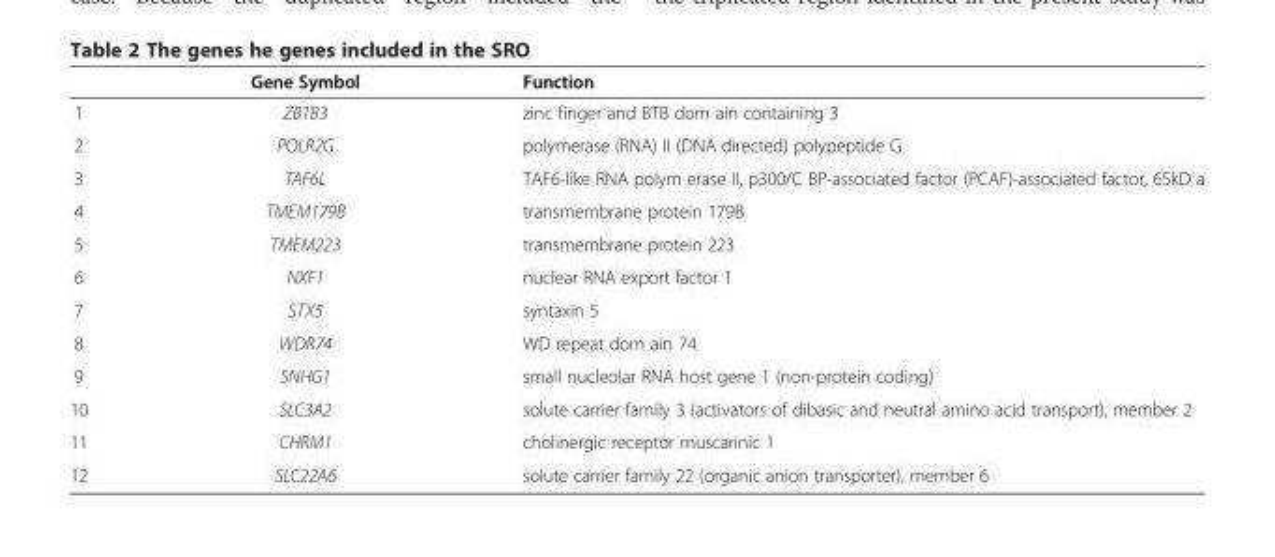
<table><thead><tr><td></td><td>Gene Symbol</td><td>Function</td></tr></thead><tbody><tr><td>1</td><td>ZBTB3</td><td>zinc finger and BTB dom ain containing 3</td></tr><tr><td>2</td><td>POLR2G</td><td>polymerase (RNA) II (DNA directed) polypeptide G</td></tr><tr><td>3</td><td>TAF6L</td><td>TAF6-like RNA polym erase II, p300/C BP-associated factor (PCAF)-associated factor, 65kD a</td></tr><tr><td>4</td><td>TMEM179B</td><td>transmembrane protein 179B</td></tr><tr><td>5</td><td>TMEM223</td><td>transmembrane protein 223</td></tr><tr><td>6</td><td>NXF1</td><td>nuclear RNA export factor 1</td></tr><tr><td>7</td><td>STX5</td><td>syntaxin 5</td></tr><tr><td>8</td><td>WDR74</td><td>WD repeat dom ain 74</td></tr><tr><td>9</td><td>SNHG1</td><td>small nucleolar RNA host gene 1 (non-protein coding)</td></tr><tr><td>10</td><td>SLC3A2</td><td>solute carrier family 3 (activators of dibasic and neutral amino acid transport), member 2</td></tr><tr><td>11</td><td>CHRM1</td><td>cholinergic receptor muscarinic 1</td></tr><tr><td>12</td><td>SLC22A6</td><td>solute carrier family 22 (organic anion transporter), member 6</td></tr></tbody></table>